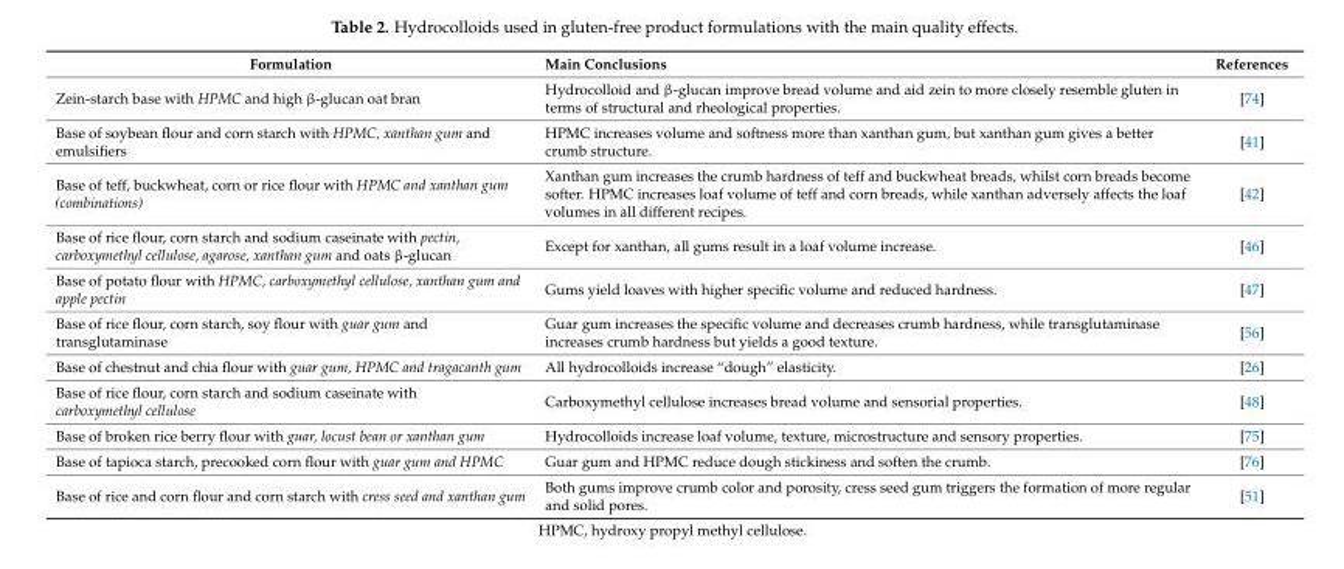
<table><thead><tr><td>Formulation</td><td>Main Conclusions</td><td>References</td></tr></thead><tbody><tr><td>Zein-starch base with HPMC and high β-glucan oat bran</td><td>Hydrocolloid and β-glucan improve bread volume and aid zein to more closely resemble gluten in terms of structural and rheological properties.</td><td>[74]</td></tr><tr><td>Base of soybean flour and corn starch with HPMC, xanthan gum and emulsifiers</td><td>HPMC increases volume and softness more than xanthan gum, but xanthan gum gives a better crumb structure.</td><td>[41]</td></tr><tr><td>Base of teff, buckwheat, corn or rice flour with HPMC and xanthan gum (combinations)</td><td>Xanthan gum increases the crumb hardness of teff and buckwheat breads, whilst corn breads become softer. HPMC increases loaf volume of teff and corn breads, while xanthan adversely affects the loaf volumes in all different recipes.</td><td>[42]</td></tr><tr><td>Base of rice flour, corn starch and sodium caseinate with pectin, carboxymethyl cellulose, agarose, xanthan gum and oats β-glucan</td><td>Except for xanthan, all gums result in a loaf volume increase.</td><td>[46]</td></tr><tr><td>Base of potato flour with HPMC, carboxymethyl cellulose, xanthan gum and apple pectin</td><td>Gums yield loaves with higher specific volume and reduced hardness.</td><td>[47]</td></tr><tr><td>Base of rice flour, corn starch, soy flour with guar gum and transglutaminase</td><td>Guar gum increases the specific volume and decreases crumb hardness, while transglutaminase increases crumb hardness but yields a good texture.</td><td>[56]</td></tr><tr><td>Base of chestnut and chia flour with guar gum, HPMC and tragacanth gum</td><td>All hydrocolloids increase “dough” elasticity.</td><td>[26]</td></tr><tr><td>Base of rice flour, corn starch and sodium caseinate with carboxymethyl cellulose</td><td>Carboxymethyl cellulose increases bread volume and sensorial properties.</td><td>[48]</td></tr><tr><td>Base of broken rice berry flour with guar, locust bean or xanthan gum</td><td>Hydrocolloids increase loaf volume, texture, microstructure and sensory properties.</td><td>[75]</td></tr><tr><td>Base of tapioca starch, precooked corn flour with guar gum and HPMC</td><td>Guar gum and HPMC reduce dough stickiness and soften the crumb.</td><td>[76]</td></tr><tr><td>Base of rice and corn flour and corn starch with cress seed and xanthan gum</td><td>Both gums improve crumb color and porosity, cress seed gum triggers the formation of more regular and solid pores.</td><td>[51]</td></tr></tbody></table>